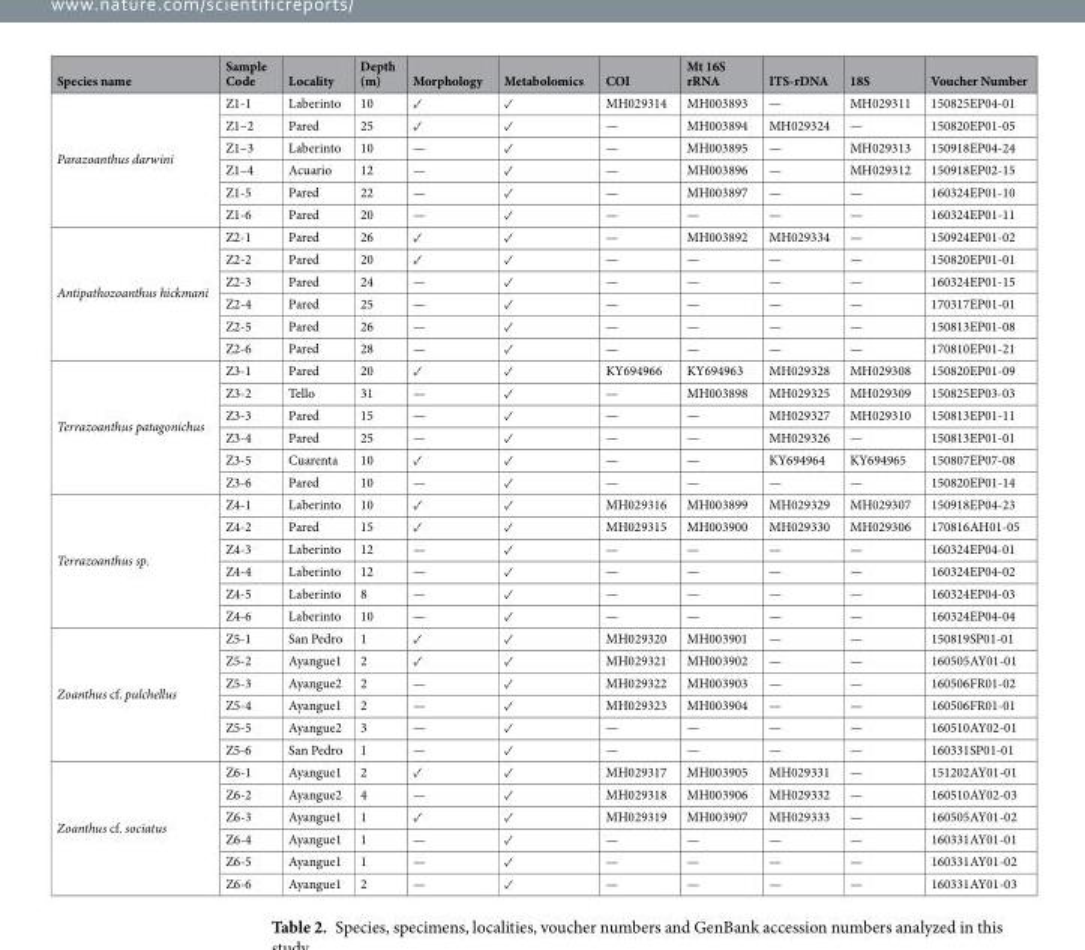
<table><thead><tr><td>Species name</td><td>Sample Code</td><td>Locality</td><td>Depth (m)</td><td>Morphology</td><td>Metabolomics</td><td>COI</td><td>Mt 16S rRNA</td><td>ITS-rDNA</td><td>18S</td><td>Voucher Number</td></tr></thead><tbody><tr><td rowspan="6">Parazoanthus darwini</td><td>Z1-1</td><td>Laberinto</td><td>10</td><td>✓</td><td>✓</td><td>MH029314</td><td>MH003893</td><td>—</td><td>MH029311</td><td>150825EP04-01</td></tr><tr><td>Z1–2</td><td>Pared</td><td>25</td><td>✓</td><td>✓</td><td>—</td><td>MH003894</td><td>MH029324</td><td>—</td><td>150820EP01-05</td></tr><tr><td>Z1–3</td><td>Laberinto</td><td>10</td><td>—</td><td>✓</td><td>—</td><td>MH003895</td><td>—</td><td>MH029313</td><td>150918EP04-24</td></tr><tr><td>Z1–4</td><td>Acuario</td><td>12</td><td>—</td><td>✓</td><td>—</td><td>MH003896</td><td>—</td><td>MH029312</td><td>150918EP02-15</td></tr><tr><td>Z1-5</td><td>Pared</td><td>22</td><td>—</td><td>✓</td><td>—</td><td>MH003897</td><td>—</td><td>—</td><td>160324EP01-10</td></tr><tr><td>Z1-6</td><td>Pared</td><td>20</td><td>—</td><td>✓</td><td>—</td><td>—</td><td>—</td><td>—</td><td>160324EP01-11</td></tr><tr><td rowspan="6">Antipathozoanthus hickmani</td><td>Z2-1</td><td>Pared</td><td>26</td><td>✓</td><td>✓</td><td>—</td><td>MH003892</td><td>MH029334</td><td>—</td><td>150924EP01-02</td></tr><tr><td>Z2-2</td><td>Pared</td><td>20</td><td>✓</td><td>✓</td><td>—</td><td>—</td><td>—</td><td>—</td><td>150820EP01-01</td></tr><tr><td>Z2-3</td><td>Pared</td><td>24</td><td>—</td><td>✓</td><td>—</td><td>—</td><td>—</td><td>—</td><td>160324EP01-15</td></tr><tr><td>Z2-4</td><td>Pared</td><td>25</td><td>—</td><td>✓</td><td>—</td><td>—</td><td>—</td><td>—</td><td>170317EP01-01</td></tr><tr><td>Z2-5</td><td>Pared</td><td>26</td><td>—</td><td>✓</td><td>—</td><td>—</td><td>—</td><td>—</td><td>150813EP01-08</td></tr><tr><td>Z2-6</td><td>Pared</td><td>28</td><td>—</td><td>✓</td><td>—</td><td>—</td><td>—</td><td>—</td><td>170810EP01-21</td></tr><tr><td rowspan="6">Terrazoanthus patagonichus</td><td>Z3-1</td><td>Pared</td><td>20</td><td>✓</td><td>✓</td><td>KY694966</td><td>KY694963</td><td>MH029328</td><td>MH029308</td><td>150820EP01-09</td></tr><tr><td>Z3-2</td><td>Tello</td><td>31</td><td>—</td><td>✓</td><td>—</td><td>MH003898</td><td>MH029325</td><td>MH029309</td><td>150825EP03-03</td></tr><tr><td>Z3-3</td><td>Pared</td><td>15</td><td>—</td><td>✓</td><td>—</td><td>—</td><td>MH029327</td><td>MH029310</td><td>150813EP01-11</td></tr><tr><td>Z3-4</td><td>Pared</td><td>25</td><td>—</td><td>✓</td><td>—</td><td>—</td><td>MH029326</td><td>—</td><td>150813EP01-01</td></tr><tr><td>Z3-5</td><td>Cuarenta</td><td>10</td><td>✓</td><td>✓</td><td>—</td><td>—</td><td>KY694964</td><td>KY694965</td><td>150807EP07-08</td></tr><tr><td>Z3-6</td><td>Pared</td><td>10</td><td>—</td><td>✓</td><td>—</td><td>—</td><td>—</td><td>—</td><td>150820EP01-14</td></tr><tr><td rowspan="6">Terrazoanthus sp.</td><td>Z4-1</td><td>Laberinto</td><td>10</td><td>✓</td><td>✓</td><td>MH029316</td><td>MH003899</td><td>MH029329</td><td>MH029307</td><td>150918EP04-23</td></tr><tr><td>Z4-2</td><td>Pared</td><td>15</td><td>✓</td><td>✓</td><td>MH029315</td><td>MH003900</td><td>MH029330</td><td>MH029306</td><td>170816AH01-05</td></tr><tr><td>Z4-3</td><td>Laberinto</td><td>12</td><td>—</td><td>✓</td><td>—</td><td>—</td><td>—</td><td>—</td><td>160324EP04-01</td></tr><tr><td>Z4-4</td><td>Laberinto</td><td>12</td><td>—</td><td>✓</td><td>—</td><td>—</td><td>—</td><td>—</td><td>160324EP04-02</td></tr><tr><td>Z4-5</td><td>Laberinto</td><td>8</td><td>—</td><td>✓</td><td>—</td><td>—</td><td>—</td><td>—</td><td>160324EP04-03</td></tr><tr><td>Z4-6</td><td>Laberinto</td><td>10</td><td>—</td><td>✓</td><td>—</td><td>—</td><td>—</td><td>—</td><td>160324EP04-04</td></tr><tr><td rowspan="6">Zoanthus cf. pulchellus</td><td>Z5-1</td><td>San Pedro</td><td>1</td><td>✓</td><td>✓</td><td>MH029320</td><td>MH003901</td><td>—</td><td>—</td><td>150819SP01-01</td></tr><tr><td>Z5-2</td><td>Ayangue1</td><td>2</td><td>✓</td><td>✓</td><td>MH029321</td><td>MH003902</td><td>—</td><td>—</td><td>160505AY01-01</td></tr><tr><td>Z5-3</td><td>Ayangue2</td><td>2</td><td>—</td><td>✓</td><td>MH029322</td><td>MH003903</td><td>—</td><td>—</td><td>160506FR01-02</td></tr><tr><td>Z5-4</td><td>Ayangue1</td><td>2</td><td>—</td><td>✓</td><td>MH029323</td><td>MH003904</td><td>—</td><td>—</td><td>160506FR01-01</td></tr><tr><td>Z5-5</td><td>Ayangue2</td><td>3</td><td>—</td><td>✓</td><td>—</td><td>—</td><td>—</td><td>—</td><td>160510AY02-01</td></tr><tr><td>Z5-6</td><td>San Pedro</td><td>1</td><td>—</td><td>✓</td><td>—</td><td>—</td><td>—</td><td>—</td><td>160331SP01-01</td></tr><tr><td rowspan="6">Zoanthus cf. sociatus</td><td>Z6-1</td><td>Ayangue1</td><td>2</td><td>✓</td><td>✓</td><td>MH029317</td><td>MH003905</td><td>MH029331</td><td>—</td><td>151202AY01-01</td></tr><tr><td>Z6-2</td><td>Ayangue2</td><td>4</td><td>—</td><td>✓</td><td>MH029318</td><td>MH003906</td><td>MH029332</td><td>—</td><td>160510AY02-03</td></tr><tr><td>Z6-3</td><td>Ayangue1</td><td>1</td><td>✓</td><td>✓</td><td>MH029319</td><td>MH003907</td><td>MH029333</td><td>—</td><td>160505AY01-02</td></tr><tr><td>Z6-4</td><td>Ayangue1</td><td>1</td><td>—</td><td>✓</td><td>—</td><td>—</td><td>—</td><td>—</td><td>160331AY01-01</td></tr><tr><td>Z6-5</td><td>Ayangue1</td><td>1</td><td>—</td><td>✓</td><td>—</td><td>—</td><td>—</td><td>—</td><td>160331AY01-02</td></tr><tr><td>Z6-6</td><td>Ayangue1</td><td>2</td><td>—</td><td>✓</td><td>—</td><td>—</td><td>—</td><td>—</td><td>160331AY01-03</td></tr></tbody></table>